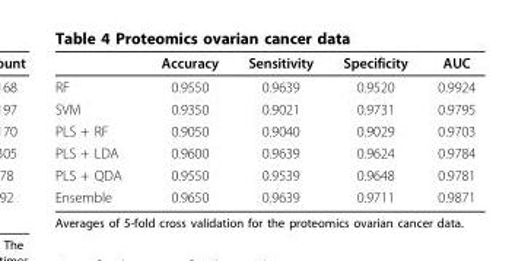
<table><thead><tr><td></td><td>Accuracy</td><td>Sensitivity</td><td>Specificity</td><td>AUC</td></tr></thead><tbody><tr><td>RF</td><td>0.9550</td><td>0.9639</td><td>0.9520</td><td>0.9924</td></tr><tr><td>SVM</td><td>0.9350</td><td>0.9021</td><td>0.9731</td><td>0.9795</td></tr><tr><td>PLS + RF</td><td>0.9050</td><td>0.9040</td><td>0.9029</td><td>0.9703</td></tr><tr><td>PLS + LDA</td><td>0.9600</td><td>0.9639</td><td>0.9624</td><td>0.9784</td></tr><tr><td>PLS + QDA</td><td>0.9550</td><td>0.9539</td><td>0.9648</td><td>0.9781</td></tr><tr><td>Ensemble</td><td>0.9650</td><td>0.9639</td><td>0.9711</td><td>0.9871</td></tr></tbody></table>